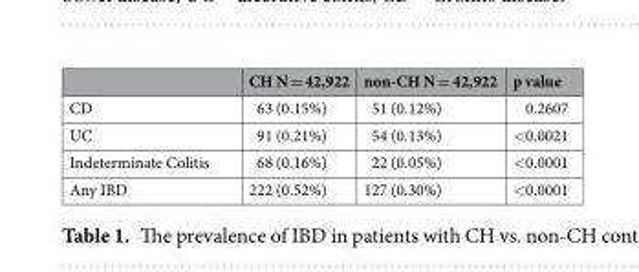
<table><thead><tr><td></td><td>CH N = 42,922</td><td>non-CH N = 42,922</td><td>p value</td></tr></thead><tbody><tr><td>CD</td><td>63 (0.15%)</td><td>51 (0.12%)</td><td>0.2607</td></tr><tr><td>UC</td><td>91 (0.21%)</td><td>54 (0.13%)</td><td>&lt;0.0021</td></tr><tr><td>Indeterminate Colitis</td><td>68 (0.16%)</td><td>22 (0.05%)</td><td>&lt;0.0001</td></tr><tr><td>Any IBD</td><td>222 (0.52%)</td><td>127 (0.30%)</td><td>&lt;0.0001</td></tr></tbody></table>